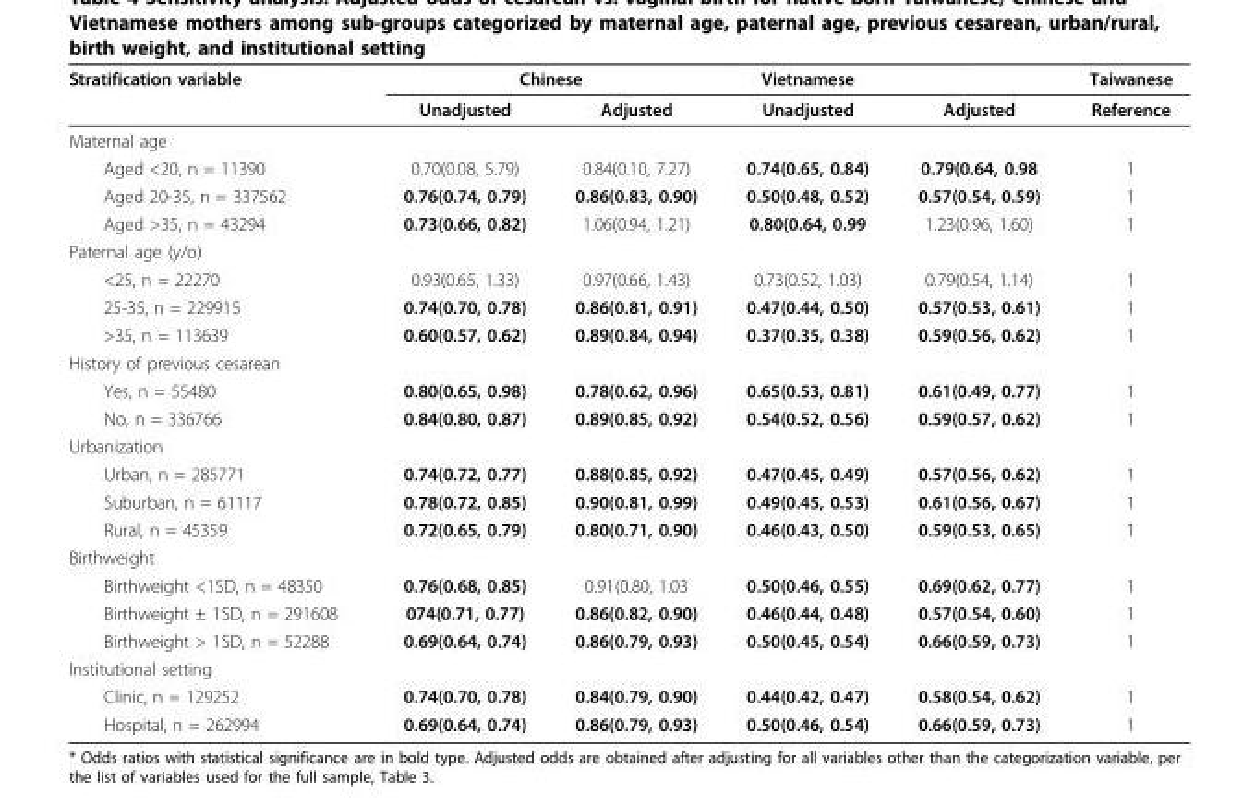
<table><thead><tr><td rowspan="2">Stratification variable</td><td colspan="2">Chinese</td><td rowspan="2">Vietnamese Unadjusted</td><td rowspan="2">Adjusted</td><td rowspan="2">Taiwanese Reference</td></tr><tr><td>Unadjusted</td><td>Adjusted</td></tr></thead><tbody><tr><td colspan="6">Maternal age</td></tr><tr><td>Aged &lt;20, n = 11390</td><td>0.70(0.08, 5.79)</td><td>0.84(0.10, 7.27)</td><td>0.74(0.65, 0.84)</td><td>0.79(0.64, 0.98</td><td>1</td></tr><tr><td>Aged 20-35, n = 337562</td><td>0.76(0.74, 0.79)</td><td>0.86(0.83, 0.90)</td><td>0.50(0.48, 0.52)</td><td>0.57(0.54, 0.59)</td><td>1</td></tr><tr><td>Aged &gt;35, n = 43294</td><td>0.73(0.66, 0.82)</td><td>1.06(0.94, 1.21)</td><td>0.80(0.64, 0.99</td><td>1.23(0.96, 1.60)</td><td>1</td></tr><tr><td colspan="6">Paternal age (y/o)</td></tr><tr><td>&lt;25, n = 22270</td><td>0.93(0.65, 1.33)</td><td>0.97(0.66, 1.43)</td><td>0.73(0.52, 1.03)</td><td>0.79(0.54, 1.14)</td><td>1</td></tr><tr><td>25-35, n = 229915</td><td>0.74(0.70, 0.78)</td><td>0.86(0.81, 0.91)</td><td>0.47(0.44, 0.50)</td><td>0.57(0.53, 0.61)</td><td>1</td></tr><tr><td>&gt;35, n = 113639</td><td>0.60(0.57, 0.62)</td><td>0.89(0.84, 0.94)</td><td>0.37(0.35, 0.38)</td><td>0.59(0.56, 0.62)</td><td>1</td></tr><tr><td colspan="6">History of previous cesarean</td></tr><tr><td>Yes, n = 55480</td><td>0.80(0.65, 0.98)</td><td>0.78(0.62, 0.96)</td><td>0.65(0.53, 0.81)</td><td>0.61(0.49, 0.77)</td><td>1</td></tr><tr><td>No, n = 336766</td><td>0.84(0.80, 0.87)</td><td>0.89(0.85, 0.92)</td><td>0.54(0.52, 0.56)</td><td>0.59(0.57, 0.62)</td><td>1</td></tr><tr><td colspan="6">Urbanization</td></tr><tr><td>Urban, n = 285771</td><td>0.74(0.72, 0.77)</td><td>0.88(0.85, 0.92)</td><td>0.47(0.45, 0.49)</td><td>0.57(0.56, 0.62)</td><td>1</td></tr><tr><td>Suburban, n = 61117</td><td>0.78(0.72, 0.85)</td><td>0.90(0.81, 0.99)</td><td>0.49(0.45, 0.53)</td><td>0.61(0.56, 0.67)</td><td>1</td></tr><tr><td>Rural, n = 45359</td><td>0.72(0.65, 0.79)</td><td>0.80(0.71, 0.90)</td><td>0.46(0.43, 0.50)</td><td>0.59(0.53, 0.65)</td><td>1</td></tr><tr><td colspan="6">Birthweight</td></tr><tr><td>Birthweight &lt;1SD, n = 48350</td><td>0.76(0.68, 0.85)</td><td>0.91(0.80, 1.03</td><td>0.50(0.46, 0.55)</td><td>0.69(0.62, 0.77)</td><td>1</td></tr><tr><td>Birthweight ± 1SD, n = 291608</td><td>074(0.71, 0.77)</td><td>0.86(0.82, 0.90)</td><td>0.46(0.44, 0.48)</td><td>0.57(0.54, 0.60)</td><td>1</td></tr><tr><td>Birthweight &gt; 1SD, n = 52288</td><td>0.69(0.64, 0.74)</td><td>0.86(0.79, 0.93)</td><td>0.50(0.45, 0.54)</td><td>0.66(0.59, 0.73)</td><td>1</td></tr><tr><td colspan="6">Institutional setting</td></tr><tr><td>Clinic, n = 129252</td><td>0.74(0.70, 0.78)</td><td>0.84(0.79, 0.90)</td><td>0.44(0.42, 0.47)</td><td>0.58(0.54, 0.62)</td><td>1</td></tr><tr><td>Hospital, n = 262994</td><td>0.69(0.64, 0.74)</td><td>0.86(0.79, 0.93)</td><td>0.50(0.46, 0.54)</td><td>0.66(0.59, 0.73)</td><td>1</td></tr></tbody></table>